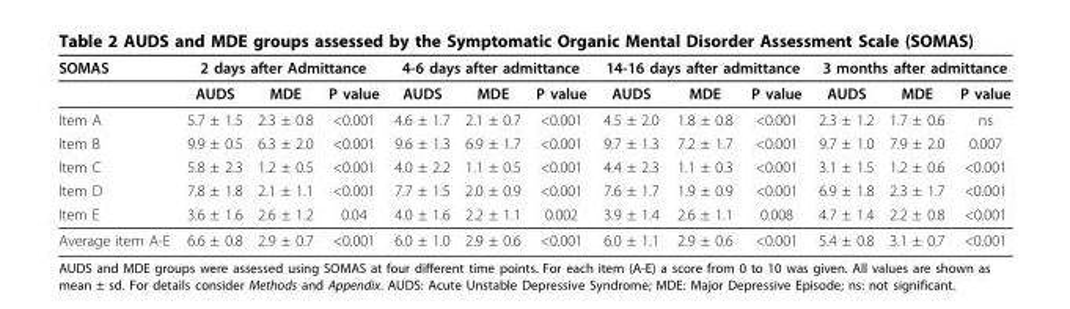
<table><thead><tr><td rowspan="2">SOMAS</td><td colspan="3">2 days after Admittance</td><td colspan="3">4-6 days after admittance</td><td colspan="3">14-16 days after admittance</td><td colspan="3">3 months after admittance</td></tr><tr><td>AUDS</td><td>MDE</td><td>P value</td><td>AUDS</td><td>MDE</td><td>P value</td><td>AUDS</td><td>MDE</td><td>P value</td><td>AUDS</td><td>MDE</td><td>P value</td></tr></thead><tbody><tr><td>Item A</td><td>5.7 ± 1.5</td><td>2.3 ± 0.8</td><td>&lt;0.001</td><td>4.6 ± 1.7</td><td>2.1 ± 0.7</td><td>&lt;0.001</td><td>4.5 ± 2.0</td><td>1.8 ± 0.8</td><td>&lt;0.001</td><td>2.3 ± 1.2</td><td>1.7 ± 0.6</td><td>ns</td></tr><tr><td>Item B</td><td>9.9 ± 0.5</td><td>6.3 ± 2.0</td><td>&lt;0.001</td><td>9.6 ± 1.3</td><td>6.9 ± 1.7</td><td>&lt;0.001</td><td>9.7 ± 1.3</td><td>7.2 ± 1.7</td><td>&lt;0.001</td><td>9.7 ± 1.0</td><td>7.9 ± 2.0</td><td>0.007</td></tr><tr><td>Item C</td><td>5.8 ± 2.3</td><td>1.2 ± 0.5</td><td>&lt;0.001</td><td>4.0 ± 2.2</td><td>1.1 ± 0.5</td><td>&lt;0.001</td><td>4.4 ± 2.3</td><td>1.1 ± 0.3</td><td>&lt;0.001</td><td>3.1 ± 1.5</td><td>1.2 ± 0.6</td><td>&lt;0.001</td></tr><tr><td>Item D</td><td>7.8 ± 1.8</td><td>2.1 ± 1.1</td><td>&lt;0.001</td><td>7.7 ± 1.5</td><td>2.0 ± 0.9</td><td>&lt;0.001</td><td>7.6 ± 1.7</td><td>1.9 ± 0.9</td><td>&lt;0.001</td><td>6.9 ± 1.8</td><td>2.3 ± 1.7</td><td>&lt;0.001</td></tr><tr><td>Item E</td><td>3.6 ± 1.6</td><td>2.6 ± 1.2</td><td>0.04</td><td>4.0 ± 1.6</td><td>2.2 ± 1.1</td><td>0.002</td><td>3.9 ± 1.4</td><td>2.6 ± 1.1</td><td>0.008</td><td>4.7 ± 1.4</td><td>2.2 ± 0.8</td><td>&lt;0.001</td></tr><tr><td>Average item A-E</td><td>6.6 ± 0.8</td><td>2.9 ± 0.7</td><td>&lt;0.001</td><td>6.0 ± 1.0</td><td>2.9 ± 0.6</td><td>&lt;0.001</td><td>6.0 ± 1.1</td><td>2.9 ± 0.6</td><td>&lt;0.001</td><td>5.4 ± 0.8</td><td>3.1 ± 0.7</td><td>&lt;0.001</td></tr></tbody></table>